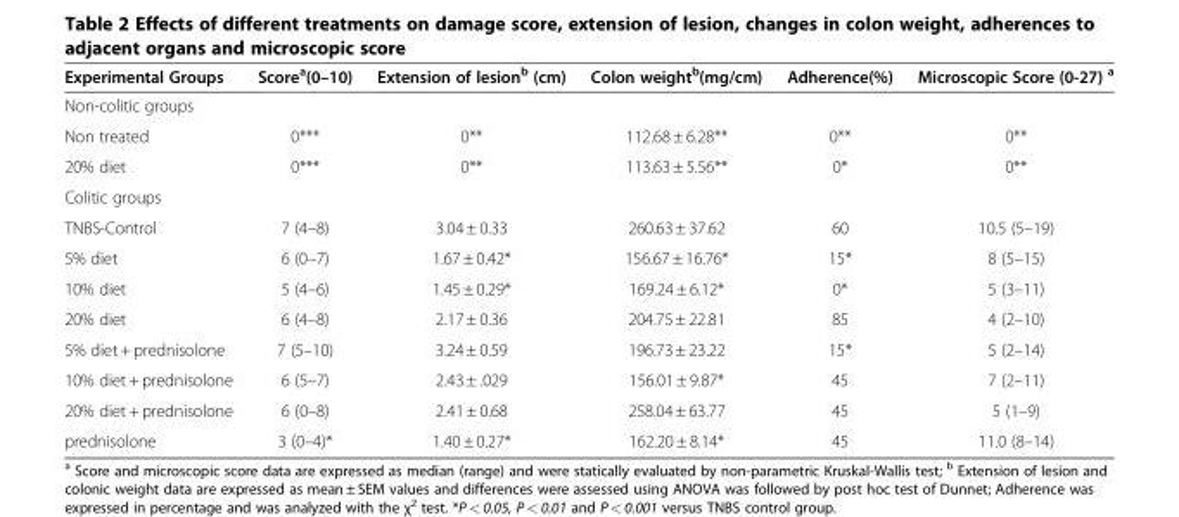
<table><thead><tr><td>Experimental Groups</td><td>Score<sup>a</sup>(0–10)</td><td>Extension of lesion<sup>b</sup> (cm)</td><td>Colon weight<sup>b</sup>(mg/cm)</td><td>Adherence(%)</td><td>Microscopic Score (0-27) <sup>a</sup></td></tr></thead><tbody><tr><td colspan="6">Non-colitic groups</td></tr><tr><td>Non treated</td><td>0***</td><td>0**</td><td>112.68 ± 6.28**</td><td>0**</td><td>0**</td></tr><tr><td>20% diet</td><td>0***</td><td>0**</td><td>113.63 ± 5.56**</td><td>0*</td><td>0**</td></tr><tr><td colspan="6">Colitic groups</td></tr><tr><td>TNBS-Control</td><td>7 (4–8)</td><td>3.04 ± 0.33</td><td>260.63 ± 37.62</td><td>60</td><td>10.5 (5–19)</td></tr><tr><td>5% diet</td><td>6 (0–7)</td><td>1.67 ± 0.42*</td><td>156.67 ± 16.76*</td><td>15*</td><td>8 (5–15)</td></tr><tr><td>10% diet</td><td>5 (4–6)</td><td>1.45 ± 0.29*</td><td>169.24 ± 6.12*</td><td>0*</td><td>5 (3–11)</td></tr><tr><td>20% diet</td><td>6 (4–8)</td><td>2.17 ± 0.36</td><td>204.75 ± 22.81</td><td>85</td><td>4 (2–10)</td></tr><tr><td>5% diet + prednisolone</td><td>7 (5–10)</td><td>3.24 ± 0.59</td><td>196.73 ± 23.22</td><td>15*</td><td>5 (2–14)</td></tr><tr><td>10% diet + prednisolone</td><td>6 (5–7)</td><td>2.43 ± .029</td><td>156.01 ± 9.87*</td><td>45</td><td>7 (2–11)</td></tr><tr><td>20% diet + prednisolone</td><td>6 (0–8)</td><td>2.41 ± 0.68</td><td>258.04 ± 63.77</td><td>45</td><td>5 (1–9)</td></tr><tr><td>prednisolone</td><td>3 (0–4)*</td><td>1.40 ± 0.27*</td><td>162.20 ± 8.14*</td><td>45</td><td>11.0 (8–14)</td></tr></tbody></table>